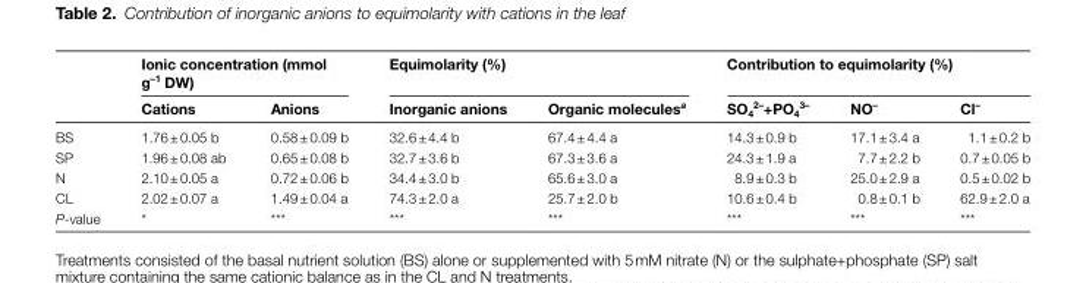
<table><thead><tr><td rowspan="2"></td><td colspan="2">Ionic concentration (mmol g<sup>–1</sup> DW)</td><td colspan="2">Equimolarity (%)</td><td colspan="3">Contribution to equimolarity (%)</td></tr><tr><td>Cations</td><td>Anions</td><td>Inorganic anions</td><td>Organic molecules<sup>a</sup></td><td>SO<sub>4</sub> <sup>2–</sup>+PO<sub>4</sub> <sup>3–</sup></td><td>NO<sup>–</sup></td><td>Cl<sup>–</sup></td></tr></thead><tbody><tr><td>BS</td><td>1.76 ± 0.05 b</td><td>0.58 ± 0.09 b</td><td>32.6 ± 4.4 b</td><td>67.4 ± 4.4 a</td><td>14.3 ± 0.9 b</td><td>17.1 ± 3.4 a</td><td>1.1 ± 0.2 b</td></tr><tr><td>SP</td><td>1.96 ± 0.08 ab</td><td>0.65 ± 0.08 b</td><td>32.7 ± 3.6 b</td><td>67.3 ± 3.6 a</td><td>24.3 ± 1.9 a</td><td>7.7 ± 2.2 b</td><td>0.7 ± 0.05 b</td></tr><tr><td>N</td><td>2.10 ± 0.05 a</td><td>0.72 ± 0.06 b</td><td>34.4 ± 3.0 b</td><td>65.6 ± 3.0 a</td><td>8.9 ± 0.3 b</td><td>25.0 ± 2.9 a</td><td>0.5 ± 0.02 b</td></tr><tr><td>CL</td><td>2.02 ± 0.07 a</td><td>1.49 ± 0.04 a</td><td>74.3 ± 2.0 a</td><td>25.7 ± 2.0 b</td><td>10.6 ± 0.4 b</td><td>0.8 ± 0.1 b</td><td>62.9 ± 2.0 a</td></tr><tr><td>P-value</td><td>*</td><td>***</td><td>***</td><td>***</td><td>***</td><td>***</td><td>***</td></tr></tbody></table>